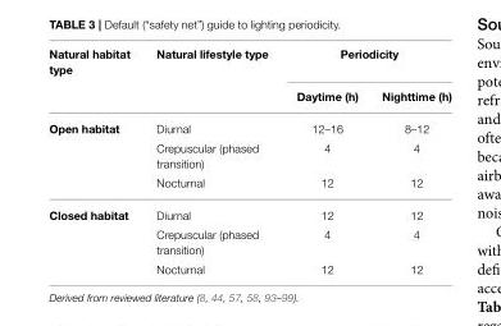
<table><thead><tr><td rowspan="2">Natural habitat type</td><td rowspan="2">Natural lifestyle type</td><td colspan="2">Periodicity</td></tr><tr><td>Daytime (h)</td><td>Nighttime (h)</td></tr></thead><tbody><tr><td rowspan="3">Open habitat</td><td>Diurnal</td><td>12–16</td><td>8–12</td></tr><tr><td>Crepuscular (phased transition)</td><td>4</td><td>4</td></tr><tr><td>Nocturnal</td><td>12</td><td>12</td></tr><tr><td rowspan="3">Closed habitat</td><td>Diurnal</td><td>12</td><td>12</td></tr><tr><td>Crepuscular (phased transition)</td><td>4</td><td>4</td></tr><tr><td>Nocturnal</td><td>12</td><td>12</td></tr></tbody></table>